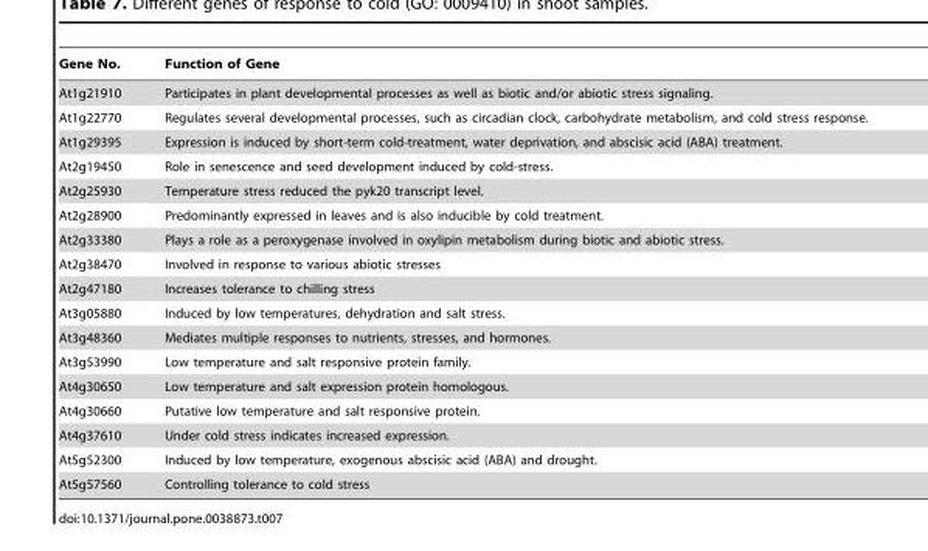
<table><thead><tr><td>Gene No.</td><td>Function of Gene</td></tr></thead><tbody><tr><td>At1g21910</td><td>Participates in plant developmental processes as well as biotic and/or abiotic stress signaling.</td></tr><tr><td>At1g22770</td><td>Regulates several developmental processes, such as circadian clock, carbohydrate metabolism, and cold stress response.</td></tr><tr><td>At1g29395</td><td>Expression is induced by short-term cold-treatment, water deprivation, and abscisic acid (ABA) treatment.</td></tr><tr><td>At2g19450</td><td>Role in senescence and seed development induced by cold-stress.</td></tr><tr><td>At2g25930</td><td>Temperature stress reduced the pyk20 transcript level.</td></tr><tr><td>At2g28900</td><td>Predominantly expressed in leaves and is also inducible by cold treatment.</td></tr><tr><td>At2g33380</td><td>Plays a role as a peroxygenase involved in oxylipin metabolism during biotic and abiotic stress.</td></tr><tr><td>At2g38470</td><td>Involved in response to various abiotic stresses</td></tr><tr><td>At2g47180</td><td>Increases tolerance to chilling stress</td></tr><tr><td>At3g05880</td><td>Induced by low temperatures, dehydration and salt stress.</td></tr><tr><td>At3g48360</td><td>Mediates multiple responses to nutrients, stresses, and hormones.</td></tr><tr><td>At3g53990</td><td>Low temperature and salt responsive protein family.</td></tr><tr><td>At4g30650</td><td>Low temperature and salt expression protein homologous.</td></tr><tr><td>At4g30660</td><td>Putative low temperature and salt responsive protein.</td></tr><tr><td>At4g37610</td><td>Under cold stress indicates increased expression.</td></tr><tr><td>At5g52300</td><td>Induced by low temperature, exogenous abscisic acid (ABA) and drought.</td></tr><tr><td>At5g57560</td><td>Controlling tolerance to cold stress</td></tr></tbody></table>